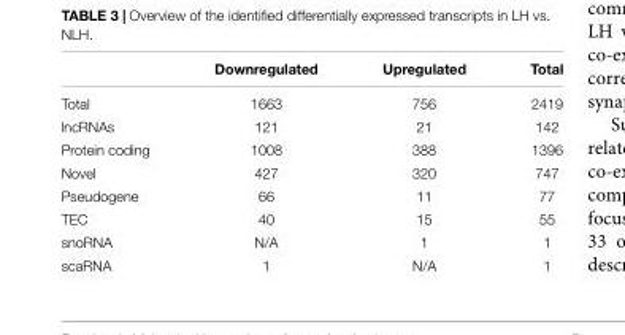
<table><thead><tr><td></td><td>Downregulated</td><td>Upregulated</td><td>Total</td></tr></thead><tbody><tr><td>Total</td><td>1663</td><td>756</td><td>2419</td></tr><tr><td>lncRNAs</td><td>121</td><td>21</td><td>142</td></tr><tr><td>Protein coding</td><td>1008</td><td>388</td><td>1396</td></tr><tr><td>Novel</td><td>427</td><td>320</td><td>747</td></tr><tr><td>Pseudogene</td><td>66</td><td>11</td><td>77</td></tr><tr><td>TEC</td><td>40</td><td>15</td><td>55</td></tr><tr><td>snoRNA</td><td>N/A</td><td>1</td><td>1</td></tr><tr><td>scaRNA</td><td>1</td><td>N/A</td><td>1</td></tr></tbody></table>